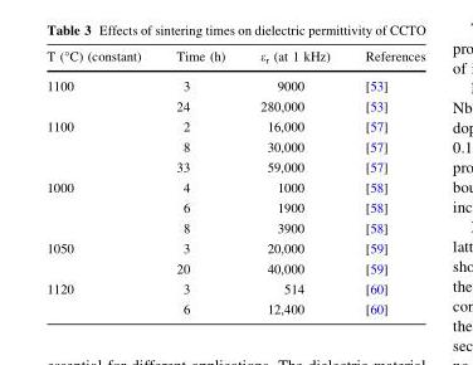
<table><thead><tr><td>T (°C) (constant)</td><td>Time (h)</td><td>er (at 1 kHz)</td><td>References</td></tr></thead><tbody><tr><td rowspan="2">1100</td><td>3</td><td>9000</td><td>[53]</td></tr><tr><td>24</td><td>280,000</td><td>[53]</td></tr><tr><td rowspan="3">1100</td><td>2</td><td>16,000</td><td>[57]</td></tr><tr><td>8</td><td>30,000</td><td>[57]</td></tr><tr><td>33</td><td>59,000</td><td>[57]</td></tr><tr><td rowspan="3">1000</td><td>4</td><td>1000</td><td>[58]</td></tr><tr><td>6</td><td>1900</td><td>[58]</td></tr><tr><td>8</td><td>3900</td><td>[58]</td></tr><tr><td rowspan="2">1050</td><td>3</td><td>20,000</td><td>[59]</td></tr><tr><td>20</td><td>40,000</td><td>[59]</td></tr><tr><td rowspan="2">1120</td><td>3</td><td>514</td><td>[60]</td></tr><tr><td>6</td><td>12,400</td><td>[60]</td></tr></tbody></table>